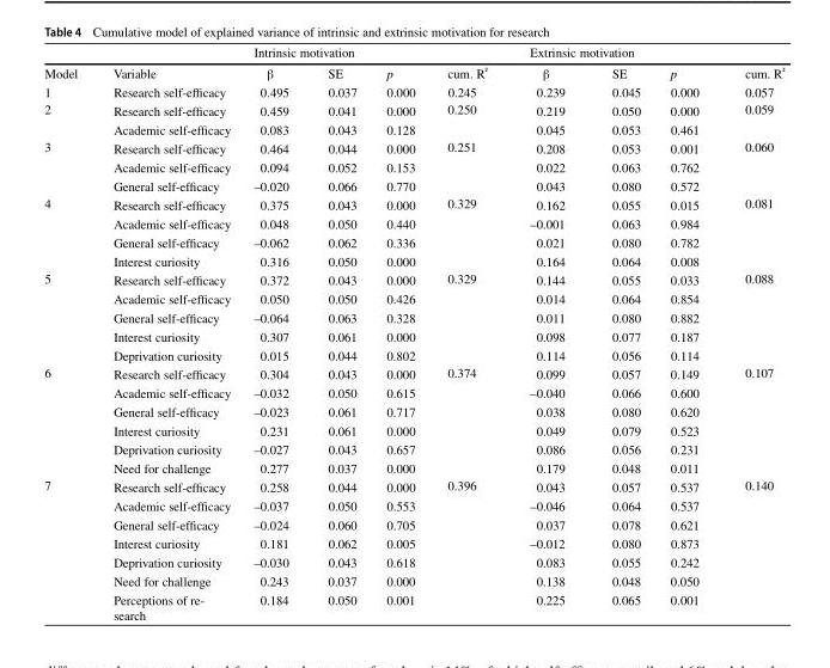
<table><thead><tr><td rowspan="2">Model</td><td rowspan="2">Variable</td><td colspan="4">Intrinsic motivation</td><td colspan="4">Extrinsic motivation</td></tr><tr><td>β</td><td>SE</td><td>p</td><td>cum. R²</td><td>β</td><td>SE</td><td>p</td><td>cum. R²</td></tr></thead><tbody><tr><td>1</td><td>Research self-efficacy</td><td>0.495</td><td>0.037</td><td>0.000</td><td>0.245</td><td>0.239</td><td>0.045</td><td>0.000</td><td>0.057</td></tr><tr><td rowspan="2">2</td><td>Research self-efficacy</td><td>0.459</td><td>0.041</td><td>0.000</td><td rowspan="2">0.250</td><td>0.219</td><td>0.050</td><td>0.000</td><td rowspan="2">0.059</td></tr><tr><td>Academic self-efficacy</td><td>0.083</td><td>0.043</td><td>0.128</td><td>0.045</td><td>0.053</td><td>0.461</td></tr><tr><td rowspan="3">3</td><td>Research self-efficacy</td><td>0.464</td><td>0.044</td><td>0.000</td><td rowspan="3">0.251</td><td>0.208</td><td>0.053</td><td>0.001</td><td rowspan="3">0.060</td></tr><tr><td>Academic self-efficacy</td><td>0.094</td><td>0.052</td><td>0.153</td><td>0.022</td><td>0.063</td><td>0.762</td></tr><tr><td>General self-efficacy</td><td>–0.020</td><td>0.066</td><td>0.770</td><td>0.043</td><td>0.080</td><td>0.572</td></tr><tr><td rowspan="4">4</td><td>Research self-efficacy</td><td>0.375</td><td>0.043</td><td>0.000</td><td rowspan="4">0.329</td><td>0.162</td><td>0.055</td><td>0.015</td><td rowspan="4">0.081</td></tr><tr><td>Academic self-efficacy</td><td>0.048</td><td>0.050</td><td>0.440</td><td>–0.001</td><td>0.063</td><td>0.984</td></tr><tr><td>General self-efficacy</td><td>–0.062</td><td>0.062</td><td>0.336</td><td>0.021</td><td>0.080</td><td>0.782</td></tr><tr><td>Interest curiosity</td><td>0.316</td><td>0.050</td><td>0.000</td><td>0.164</td><td>0.064</td><td>0.008</td></tr><tr><td rowspan="5">5</td><td>Research self-efficacy</td><td>0.372</td><td>0.043</td><td>0.000</td><td rowspan="5">0.329</td><td>0.144</td><td>0.055</td><td>0.033</td><td rowspan="5">0.088</td></tr><tr><td>Academic self-efficacy</td><td>0.050</td><td>0.050</td><td>0.426</td><td>0.014</td><td>0.064</td><td>0.854</td></tr><tr><td>General self-efficacy</td><td>–0.064</td><td>0.063</td><td>0.328</td><td>0.011</td><td>0.080</td><td>0.882</td></tr><tr><td>Interest curiosity</td><td>0.307</td><td>0.061</td><td>0.000</td><td>0.098</td><td>0.077</td><td>0.187</td></tr><tr><td>Deprivation curiosity</td><td>0.015</td><td>0.044</td><td>0.802</td><td>0.114</td><td>0.056</td><td>0.114</td></tr><tr><td rowspan="6">6</td><td>Research self-efficacy</td><td>0.304</td><td>0.043</td><td>0.000</td><td rowspan="6">0.374</td><td>0.099</td><td>0.057</td><td>0.149</td><td rowspan="6">0.107</td></tr><tr><td>Academic self-efficacy</td><td>–0.032</td><td>0.050</td><td>0.615</td><td>–0.040</td><td>0.066</td><td>0.600</td></tr><tr><td>General self-efficacy</td><td>–0.023</td><td>0.061</td><td>0.717</td><td>0.038</td><td>0.080</td><td>0.620</td></tr><tr><td>Interest curiosity</td><td>0.231</td><td>0.061</td><td>0.000</td><td>0.049</td><td>0.079</td><td>0.523</td></tr><tr><td>Deprivation curiosity</td><td>–0.027</td><td>0.043</td><td>0.657</td><td>0.086</td><td>0.056</td><td>0.231</td></tr><tr><td>Need for challenge</td><td>0.277</td><td>0.037</td><td>0.000</td><td>0.179</td><td>0.048</td><td>0.011</td></tr><tr><td rowspan="7">7</td><td>Research self-efficacy</td><td>0.258</td><td>0.044</td><td>0.000</td><td rowspan="7">0.396</td><td>0.043</td><td>0.057</td><td>0.537</td><td rowspan="7">0.140</td></tr><tr><td>Academic self-efficacy</td><td>–0.037</td><td>0.050</td><td>0.553</td><td>–0.046</td><td>0.064</td><td>0.537</td></tr><tr><td>General self-efficacy</td><td>–0.024</td><td>0.060</td><td>0.705</td><td>0.037</td><td>0.078</td><td>0.621</td></tr><tr><td>Interest curiosity</td><td>0.181</td><td>0.062</td><td>0.005</td><td>–0.012</td><td>0.080</td><td>0.873</td></tr><tr><td>Deprivation curiosity</td><td>–0.030</td><td>0.043</td><td>0.618</td><td>0.083</td><td>0.055</td><td>0.242</td></tr><tr><td>Need for challenge</td><td>0.243</td><td>0.037</td><td>0.000</td><td>0.138</td><td>0.048</td><td>0.050</td></tr><tr><td>Perceptions of re- search</td><td>0.184</td><td>0.050</td><td>0.001</td><td>0.225</td><td>0.065</td><td>0.001</td></tr></tbody></table>